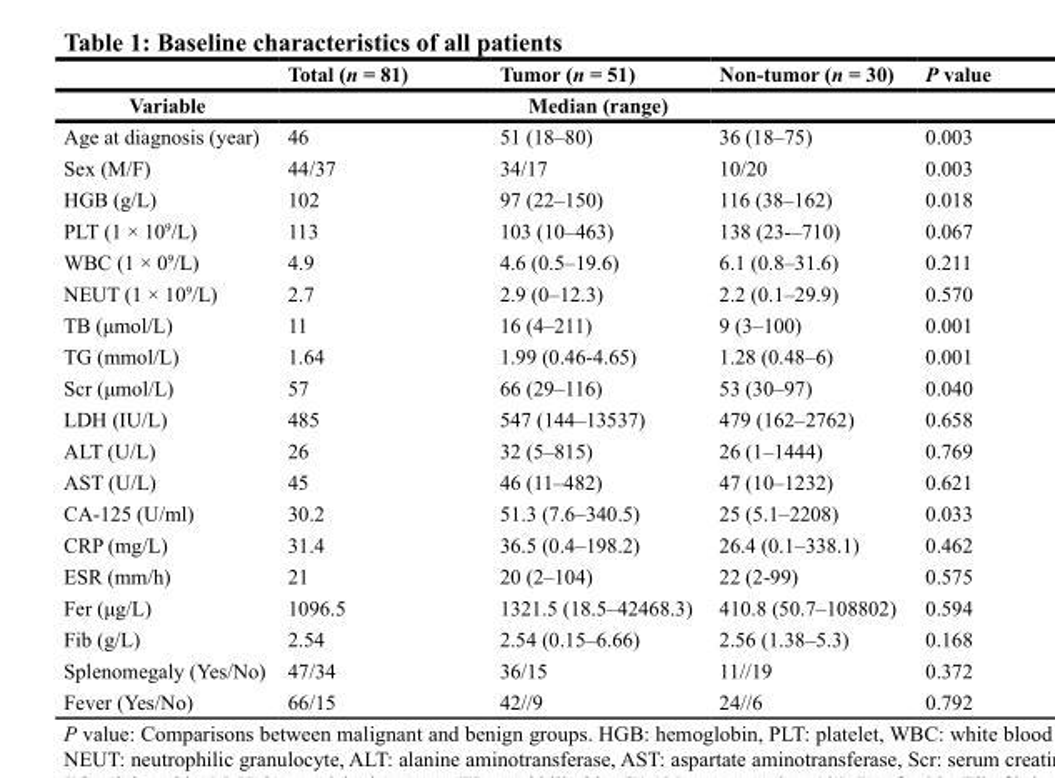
<table><thead><tr><td rowspan="2">Variable</td><td>Total (n = 81)</td><td>Tumor (n = 51)</td><td>Non-tumor (n = 30)</td><td>P value</td></tr><tr><td colspan="4">Median (range)</td></tr></thead><tbody><tr><td>Age at diagnosis (year)</td><td>46</td><td>51 (18–80)</td><td>36 (18–75)</td><td>0.003</td></tr><tr><td>Sex (M/F)</td><td>44/37</td><td>34/17</td><td>10/20</td><td>0.003</td></tr><tr><td>HGB (g/L)</td><td>102</td><td>97 (22–150)</td><td>116 (38–162)</td><td>0.018</td></tr><tr><td>PLT (1 × 10<sup>9</sup>/L)</td><td>113</td><td>103 (10–463)</td><td>138 (23-–710)</td><td>0.067</td></tr><tr><td>WBC (1 × 0<sup>9</sup>/L)</td><td>4.9</td><td>4.6 (0.5–19.6)</td><td>6.1 (0.8–31.6)</td><td>0.211</td></tr><tr><td>NEUT (1 × 10<sup>9</sup>/L)</td><td>2.7</td><td>2.9 (0–12.3)</td><td>2.2 (0.1–29.9)</td><td>0.570</td></tr><tr><td>TB (μmol/L)</td><td>11</td><td>16 (4–211)</td><td>9 (3–100)</td><td>0.001</td></tr><tr><td>TG (mmol/L)</td><td>1.64</td><td>1.99 (0.46-4.65)</td><td>1.28 (0.48–6)</td><td>0.001</td></tr><tr><td>Scr (μmol/L)</td><td>57</td><td>66 (29–116)</td><td>53 (30–97)</td><td>0.040</td></tr><tr><td>LDH (IU/L)</td><td>485</td><td>547 (144–13537)</td><td>479 (162–2762)</td><td>0.658</td></tr><tr><td>ALT (U/L)</td><td>26</td><td>32 (5–815)</td><td>26 (1–1444)</td><td>0.769</td></tr><tr><td>AST (U/L)</td><td>45</td><td>46 (11–482)</td><td>47 (10–1232)</td><td>0.621</td></tr><tr><td>CA-125 (U/ml)</td><td>30.2</td><td>51.3 (7.6–340.5)</td><td>25 (5.1–2208)</td><td>0.033</td></tr><tr><td>CRP (mg/L)</td><td>31.4</td><td>36.5 (0.4–198.2)</td><td>26.4 (0.1–338.1)</td><td>0.462</td></tr><tr><td>ESR (mm/h)</td><td>21</td><td>20 (2–104)</td><td>22 (2-99)</td><td>0.575</td></tr><tr><td>Fer (μg/L)</td><td>1096.5</td><td>1321.5 (18.5–42468.3)</td><td>410.8 (50.7–108802)</td><td>0.594</td></tr><tr><td>Fib (g/L)</td><td>2.54</td><td>2.54 (0.15–6.66)</td><td>2.56 (1.38–5.3)</td><td>0.168</td></tr><tr><td>Splenomegaly (Yes/No)</td><td>47/34</td><td>36/15</td><td>11//19</td><td>0.372</td></tr><tr><td>Fever (Yes/No)</td><td>66/15</td><td>42//9</td><td>24//6</td><td>0.792</td></tr></tbody></table>